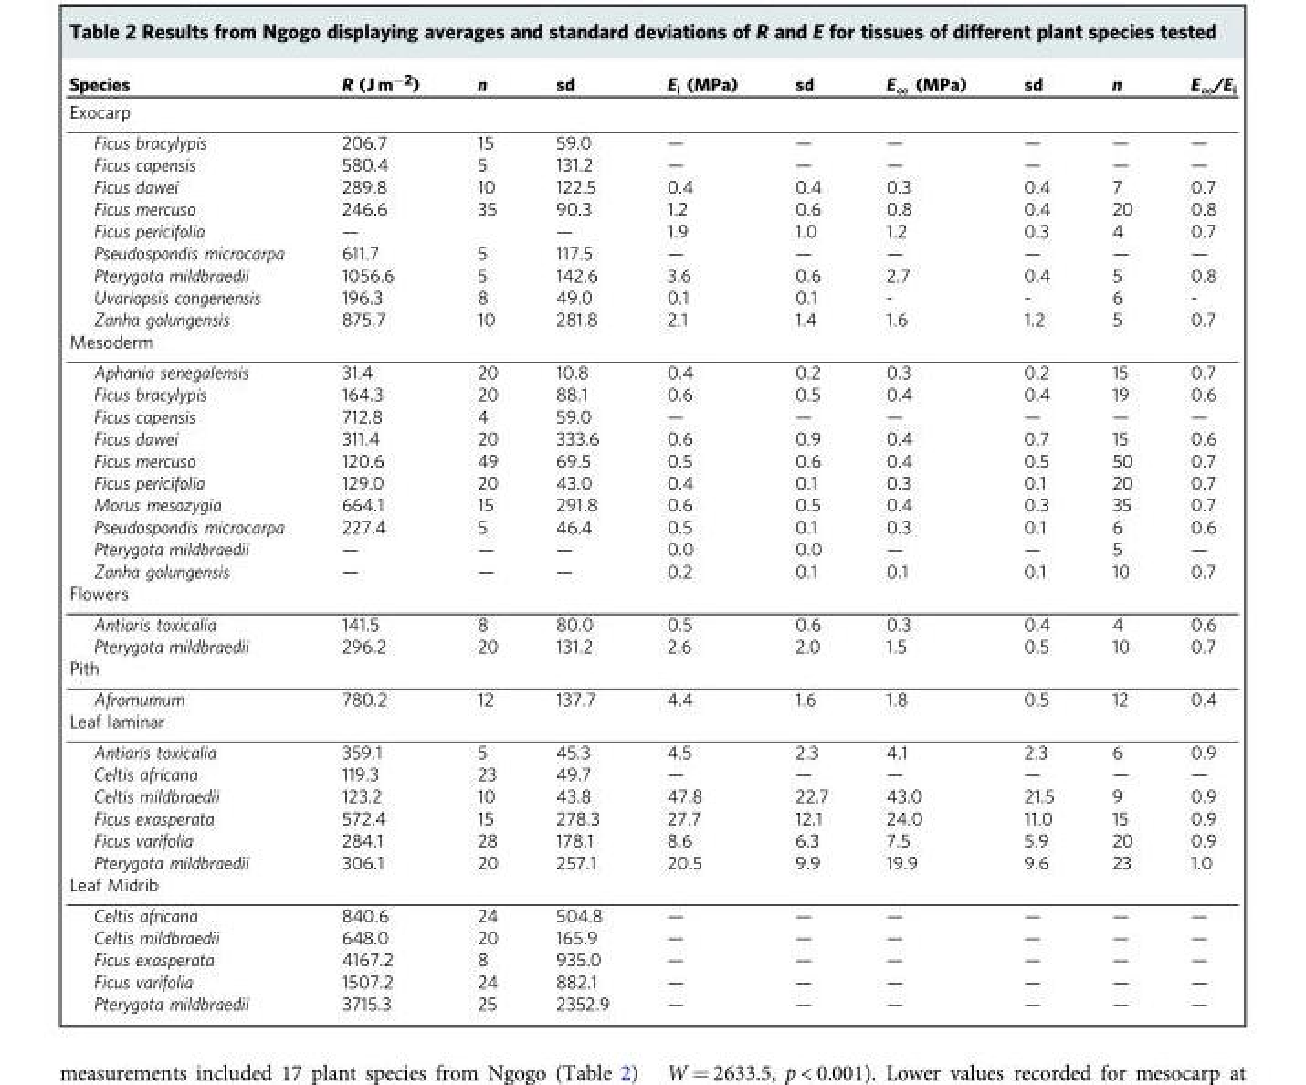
<table><thead><tr><td>Species</td><td>R (J m<sup>−2</sup>)</td><td>n</td><td>sd</td><td>E<sub>i</sub> (MPa)</td><td>sd</td><td>E<sub>∞</sub> (MPa)</td><td>sd</td><td>n</td><td>E<sub>∞</sub>/E<sub>i</sub></td></tr></thead><tbody><tr><td colspan="10">Exocarp</td></tr><tr><td>Ficus bracylypis</td><td>206.7</td><td>15</td><td>59.0</td><td>—</td><td>—</td><td>—</td><td>—</td><td>—</td><td>—</td></tr><tr><td>Ficus capensis</td><td>580.4</td><td>5</td><td>131.2</td><td>—</td><td>—</td><td>—</td><td>—</td><td>—</td><td>—</td></tr><tr><td>Ficus dawei</td><td>289.8</td><td>10</td><td>122.5</td><td>0.4</td><td>0.4</td><td>0.3</td><td>0.4</td><td>7</td><td>0.7</td></tr><tr><td>Ficus mercuso</td><td>246.6</td><td>35</td><td>90.3</td><td>1.2</td><td>0.6</td><td>0.8</td><td>0.4</td><td>20</td><td>0.8</td></tr><tr><td>Ficus pericifolia</td><td>—</td><td></td><td>—</td><td>1.9</td><td>1.0</td><td>1.2</td><td>0.3</td><td>4</td><td>0.7</td></tr><tr><td>Pseudospondis microcarpa</td><td>611.7</td><td>5</td><td>117.5</td><td>—</td><td>—</td><td>—</td><td>—</td><td>—</td><td>—</td></tr><tr><td>Pterygota mildbraedii</td><td>1056.6</td><td>5</td><td>142.6</td><td>3.6</td><td>0.6</td><td>2.7</td><td>0.4</td><td>5</td><td>0.8</td></tr><tr><td>Uvariopsis congenensis</td><td>196.3</td><td>8</td><td>49.0</td><td>0.1</td><td>0.1</td><td>-</td><td>-</td><td>6</td><td>-</td></tr><tr><td>Zanha golungensis</td><td>875.7</td><td>10</td><td>281.8</td><td>2.1</td><td>1.4</td><td>1.6</td><td>1.2</td><td>5</td><td>0.7</td></tr><tr><td colspan="10">Mesoderm</td></tr><tr><td>Aphania senegalensis</td><td>31.4</td><td>20</td><td>10.8</td><td>0.4</td><td>0.2</td><td>0.3</td><td>0.2</td><td>15</td><td>0.7</td></tr><tr><td>Ficus bracylypis</td><td>164.3</td><td>20</td><td>88.1</td><td>0.6</td><td>0.5</td><td>0.4</td><td>0.4</td><td>19</td><td>0.6</td></tr><tr><td>Ficus capensis</td><td>712.8</td><td>4</td><td>59.0</td><td>—</td><td>—</td><td>—</td><td>—</td><td>—</td><td>—</td></tr><tr><td>Ficus dawei</td><td>311.4</td><td>20</td><td>333.6</td><td>0.6</td><td>0.9</td><td>0.4</td><td>0.7</td><td>15</td><td>0.6</td></tr><tr><td>Ficus mercuso</td><td>120.6</td><td>49</td><td>69.5</td><td>0.5</td><td>0.6</td><td>0.4</td><td>0.5</td><td>50</td><td>0.7</td></tr><tr><td>Ficus pericifolia</td><td>129.0</td><td>20</td><td>43.0</td><td>0.4</td><td>0.1</td><td>0.3</td><td>0.1</td><td>20</td><td>0.7</td></tr><tr><td>Morus mesozygia</td><td>664.1</td><td>15</td><td>291.8</td><td>0.6</td><td>0.5</td><td>0.4</td><td>0.3</td><td>35</td><td>0.7</td></tr><tr><td>Pseudospondis microcarpa</td><td>227.4</td><td>5</td><td>46.4</td><td>0.5</td><td>0.1</td><td>0.3</td><td>0.1</td><td>6</td><td>0.6</td></tr><tr><td>Pterygota mildbraedii</td><td>—</td><td>—</td><td>—</td><td>0.0</td><td>0.0</td><td>—</td><td>—</td><td>5</td><td>—</td></tr><tr><td>Zanha golungensis</td><td>—</td><td>—</td><td>—</td><td>0.2</td><td>0.1</td><td>0.1</td><td>0.1</td><td>10</td><td>0.7</td></tr><tr><td colspan="10">Flowers</td></tr><tr><td>Antiaris toxicalia</td><td>141.5</td><td>8</td><td>80.0</td><td>0.5</td><td>0.6</td><td>0.3</td><td>0.4</td><td>4</td><td>0.6</td></tr><tr><td>Pterygota mildbraedii</td><td>296.2</td><td>20</td><td>131.2</td><td>2.6</td><td>2.0</td><td>1.5</td><td>0.5</td><td>10</td><td>0.7</td></tr><tr><td colspan="10">Pith</td></tr><tr><td>Afromumum</td><td>780.2</td><td>12</td><td>137.7</td><td>4.4</td><td>1.6</td><td>1.8</td><td>0.5</td><td>12</td><td>0.4</td></tr><tr><td colspan="10">Leaf laminar</td></tr><tr><td>Antiaris toxicalia</td><td>359.1</td><td>5</td><td>45.3</td><td>4.5</td><td>2.3</td><td>4.1</td><td>2.3</td><td>6</td><td>0.9</td></tr><tr><td>Celtis africana</td><td>119.3</td><td>23</td><td>49.7</td><td>—</td><td>—</td><td>—</td><td>—</td><td>—</td><td>—</td></tr><tr><td>Celtis mildbraedii</td><td>123.2</td><td>10</td><td>43.8</td><td>47.8</td><td>22.7</td><td>43.0</td><td>21.5</td><td>9</td><td>0.9</td></tr><tr><td>Ficus exasperata</td><td>572.4</td><td>15</td><td>278.3</td><td>27.7</td><td>12.1</td><td>24.0</td><td>11.0</td><td>15</td><td>0.9</td></tr><tr><td>Ficus varifolia</td><td>284.1</td><td>28</td><td>178.1</td><td>8.6</td><td>6.3</td><td>7.5</td><td>5.9</td><td>20</td><td>0.9</td></tr><tr><td>Pterygota mildbraedii</td><td>306.1</td><td>20</td><td>257.1</td><td>20.5</td><td>9.9</td><td>19.9</td><td>9.6</td><td>23</td><td>1.0</td></tr><tr><td colspan="10">Leaf Midrib</td></tr><tr><td>Celtis africana</td><td>840.6</td><td>24</td><td>504.8</td><td>—</td><td>—</td><td>—</td><td>—</td><td>—</td><td>—</td></tr><tr><td>Celtis mildbraedii</td><td>648.0</td><td>20</td><td>165.9</td><td>—</td><td>—</td><td>—</td><td>—</td><td>—</td><td>—</td></tr><tr><td>Ficus exasperata</td><td>4167.2</td><td>8</td><td>935.0</td><td>—</td><td>—</td><td>—</td><td>—</td><td>—</td><td>—</td></tr><tr><td>Ficus varifolia</td><td>1507.2</td><td>24</td><td>882.1</td><td>—</td><td>—</td><td>—</td><td>—</td><td>—</td><td>—</td></tr><tr><td>Pterygota mildbraedii</td><td>3715.3</td><td>25</td><td>2352.9</td><td>—</td><td>—</td><td>—</td><td>—</td><td>—</td><td>—</td></tr></tbody></table>